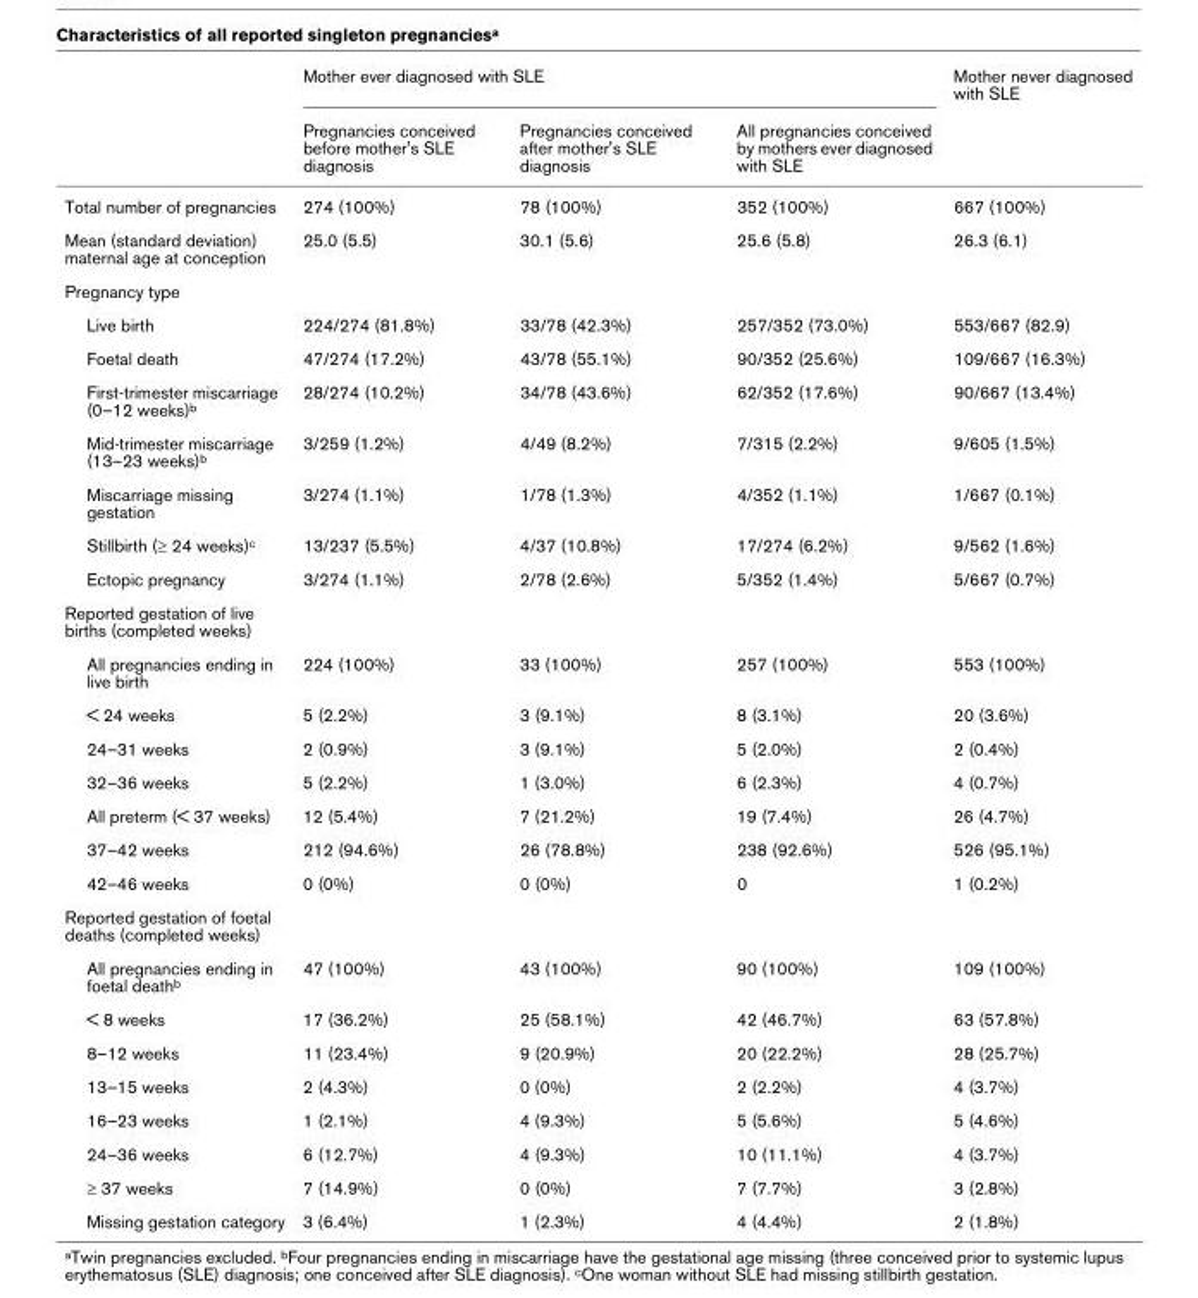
<table><thead><tr><td rowspan="2"></td><td colspan="3">Mother ever diagnosed with SLE</td><td rowspan="2">Mother never diagnosed with SLE</td></tr><tr><td>Pregnancies conceived before mother&#x27;s SLE diagnosis</td><td>Pregnancies conceived after mother&#x27;s SLE diagnosis</td><td>All pregnancies conceived by mothers ever diagnosed with SLE</td></tr></thead><tbody><tr><td>Total number of pregnancies</td><td>274 (100%)</td><td>78 (100%)</td><td>352 (100%)</td><td>667 (100%)</td></tr><tr><td>Mean (standard deviation) maternal age at conception</td><td>25.0 (5.5)</td><td>30.1 (5.6)</td><td>25.6 (5.8)</td><td>26.3 (6.1)</td></tr><tr><td colspan="5">Pregnancy type</td></tr><tr><td>Live birth</td><td>224/274 (81.8%)</td><td>33/78 (42.3%)</td><td>257/352 (73.0%)</td><td>553/667 (82.9)</td></tr><tr><td>Foetal death</td><td>47/274 (17.2%)</td><td>43/78 (55.1%)</td><td>90/352 (25.6%)</td><td>109/667 (16.3%)</td></tr><tr><td>First-trimester miscarriage (0–12 weeks)<sup>b</sup></td><td>28/274 (10.2%)</td><td>34/78 (43.6%)</td><td>62/352 (17.6%)</td><td>90/667 (13.4%)</td></tr><tr><td>Mid-trimester miscarriage (13–23 weeks)<sup>b</sup></td><td>3/259 (1.2%)</td><td>4/49 (8.2%)</td><td>7/315 (2.2%)</td><td>9/605 (1.5%)</td></tr><tr><td>Miscarriage missing gestation</td><td>3/274 (1.1%)</td><td>1/78 (1.3%)</td><td>4/352 (1.1%)</td><td>1/667 (0.1%)</td></tr><tr><td>Stillbirth (≥ 24 weeks)<sup>c</sup></td><td>13/237 (5.5%)</td><td>4/37 (10.8%)</td><td>17/274 (6.2%)</td><td>9/562 (1.6%)</td></tr><tr><td>Ectopic pregnancy</td><td>3/274 (1.1%)</td><td>2/78 (2.6%)</td><td>5/352 (1.4%)</td><td>5/667 (0.7%)</td></tr><tr><td colspan="5">Reported gestation of live births (completed weeks)</td></tr><tr><td>All pregnancies ending in live birth</td><td>224 (100%)</td><td>33 (100%)</td><td>257 (100%)</td><td>553 (100%)</td></tr><tr><td>&lt; 24 weeks</td><td>5 (2.2%)</td><td>3 (9.1%)</td><td>8 (3.1%)</td><td>20 (3.6%)</td></tr><tr><td>24–31 weeks</td><td>2 (0.9%)</td><td>3 (9.1%)</td><td>5 (2.0%)</td><td>2 (0.4%)</td></tr><tr><td>32–36 weeks</td><td>5 (2.2%)</td><td>1 (3.0%)</td><td>6 (2.3%)</td><td>4 (0.7%)</td></tr><tr><td>All preterm (&lt; 37 weeks)</td><td>12 (5.4%)</td><td>7 (21.2%)</td><td>19 (7.4%)</td><td>26 (4.7%)</td></tr><tr><td>37–42 weeks</td><td>212 (94.6%)</td><td>26 (78.8%)</td><td>238 (92.6%)</td><td>526 (95.1%)</td></tr><tr><td>42–46 weeks</td><td>0 (0%)</td><td>0 (0%)</td><td>0</td><td>1 (0.2%)</td></tr><tr><td colspan="5">Reported gestation of foetal deaths (completed weeks)</td></tr><tr><td>All pregnancies ending in foetal death<sup>b</sup></td><td>47 (100%)</td><td>43 (100%)</td><td>90 (100%)</td><td>109 (100%)</td></tr><tr><td>&lt; 8 weeks</td><td>17 (36.2%)</td><td>25 (58.1%)</td><td>42 (46.7%)</td><td>63 (57.8%)</td></tr><tr><td>8–12 weeks</td><td>11 (23.4%)</td><td>9 (20.9%)</td><td>20 (22.2%)</td><td>28 (25.7%)</td></tr><tr><td>13–15 weeks</td><td>2 (4.3%)</td><td>0 (0%)</td><td>2 (2.2%)</td><td>4 (3.7%)</td></tr><tr><td>16–23 weeks</td><td>1 (2.1%)</td><td>4 (9.3%)</td><td>5 (5.6%)</td><td>5 (4.6%)</td></tr><tr><td>24–36 weeks</td><td>6 (12.7%)</td><td>4 (9.3%)</td><td>10 (11.1%)</td><td>4 (3.7%)</td></tr><tr><td>≥ 37 weeks</td><td>7 (14.9%)</td><td>0 (0%)</td><td>7 (7.7%)</td><td>3 (2.8%)</td></tr><tr><td>Missing gestation category</td><td>3 (6.4%)</td><td>1 (2.3%)</td><td>4 (4.4%)</td><td>2 (1.8%)</td></tr></tbody></table>